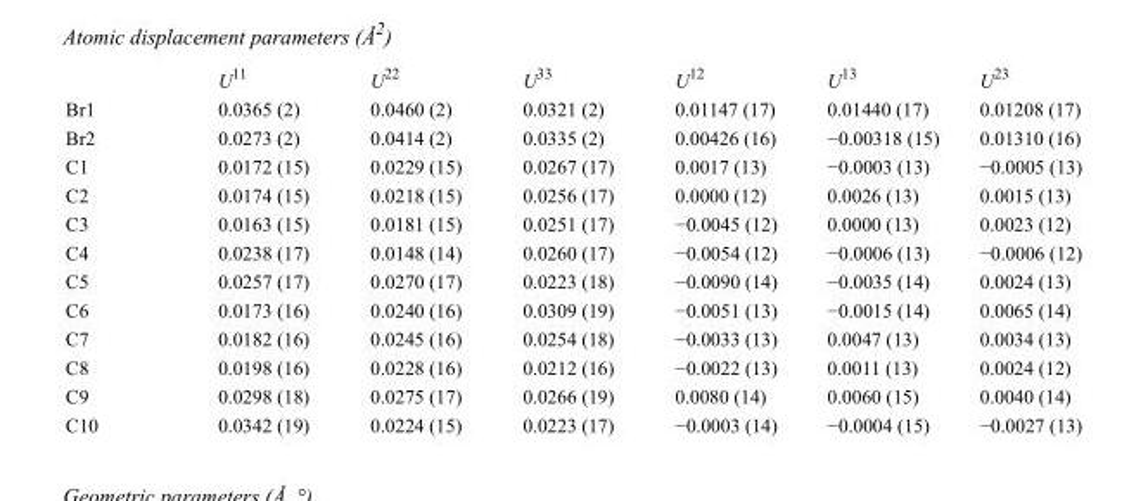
<table><thead><tr><td></td><td>U<sup>11</sup></td><td>U<sup>22</sup></td><td>U<sup>33</sup></td><td>U<sup>12</sup></td><td>U<sup>13</sup></td><td>U<sup>23</sup></td></tr></thead><tbody><tr><td>Br1</td><td>0.0365 (2)</td><td>0.0460 (2)</td><td>0.0321 (2)</td><td>0.01147 (17)</td><td>0.01440 (17)</td><td>0.01208 (17)</td></tr><tr><td>Br2</td><td>0.0273 (2)</td><td>0.0414 (2)</td><td>0.0335 (2)</td><td>0.00426 (16)</td><td>−0.00318 (15)</td><td>0.01310 (16)</td></tr><tr><td>C1</td><td>0.0172 (15)</td><td>0.0229 (15)</td><td>0.0267 (17)</td><td>0.0017 (13)</td><td>−0.0003 (13)</td><td>−0.0005 (13)</td></tr><tr><td>C2</td><td>0.0174 (15)</td><td>0.0218 (15)</td><td>0.0256 (17)</td><td>0.0000 (12)</td><td>0.0026 (13)</td><td>0.0015 (13)</td></tr><tr><td>C3</td><td>0.0163 (15)</td><td>0.0181 (15)</td><td>0.0251 (17)</td><td>−0.0045 (12)</td><td>0.0000 (13)</td><td>0.0023 (12)</td></tr><tr><td>C4</td><td>0.0238 (17)</td><td>0.0148 (14)</td><td>0.0260 (17)</td><td>−0.0054 (12)</td><td>−0.0006 (13)</td><td>−0.0006 (12)</td></tr><tr><td>C5</td><td>0.0257 (17)</td><td>0.0270 (17)</td><td>0.0223 (18)</td><td>−0.0090 (14)</td><td>−0.0035 (14)</td><td>0.0024 (13)</td></tr><tr><td>C6</td><td>0.0173 (16)</td><td>0.0240 (16)</td><td>0.0309 (19)</td><td>−0.0051 (13)</td><td>−0.0015 (14)</td><td>0.0065 (14)</td></tr><tr><td>C7</td><td>0.0182 (16)</td><td>0.0245 (16)</td><td>0.0254 (18)</td><td>−0.0033 (13)</td><td>0.0047 (13)</td><td>0.0034 (13)</td></tr><tr><td>C8</td><td>0.0198 (16)</td><td>0.0228 (16)</td><td>0.0212 (16)</td><td>−0.0022 (13)</td><td>0.0011 (13)</td><td>0.0024 (12)</td></tr><tr><td>C9</td><td>0.0298 (18)</td><td>0.0275 (17)</td><td>0.0266 (19)</td><td>0.0080 (14)</td><td>0.0060 (15)</td><td>0.0040 (14)</td></tr><tr><td>C10</td><td>0.0342 (19)</td><td>0.0224 (15)</td><td>0.0223 (17)</td><td>−0.0003 (14)</td><td>−0.0004 (15)</td><td>−0.0027 (13)</td></tr></tbody></table>